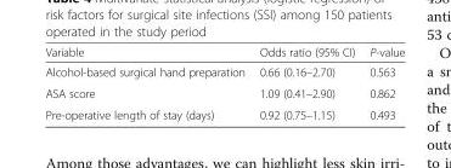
<table><thead><tr><td>Variable</td><td>Odds ratio (95% CI)</td><td>P-value</td></tr></thead><tbody><tr><td>Alcohol-based surgical hand preparation</td><td>0.66 (0.16–2.70)</td><td>0.563</td></tr><tr><td>ASA score</td><td>1.09 (0.41–2.90)</td><td>0.862</td></tr><tr><td>Pre-operative length of stay (days)</td><td>0.92 (0.75–1.15)</td><td>0.493</td></tr></tbody></table>